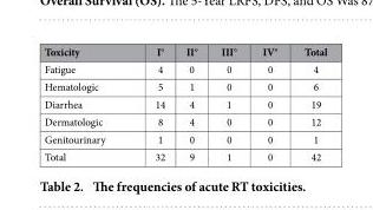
<table><thead><tr><td>Toxicity</td><td>I°</td><td>II°</td><td>III°</td><td>IV°</td><td>Total</td></tr></thead><tbody><tr><td>Fatigue</td><td>4</td><td>0</td><td>0</td><td>0</td><td>4</td></tr><tr><td>Hematologic</td><td>5</td><td>1</td><td>0</td><td>0</td><td>6</td></tr><tr><td>Diarrhea</td><td>14</td><td>4</td><td>1</td><td>0</td><td>19</td></tr><tr><td>Dermatologic</td><td>8</td><td>4</td><td>0</td><td>0</td><td>12</td></tr><tr><td>Genitourinary</td><td>1</td><td>0</td><td>0</td><td>0</td><td>1</td></tr><tr><td>Total</td><td>32</td><td>9</td><td>1</td><td>0</td><td>42</td></tr></tbody></table>